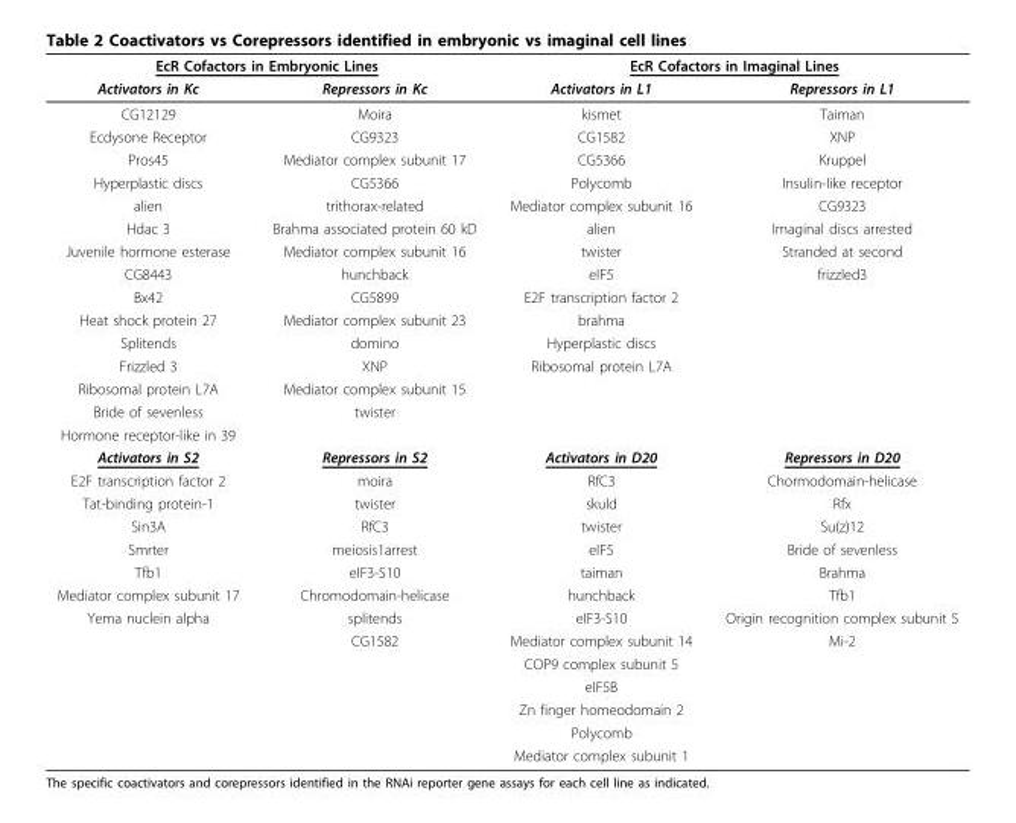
<table><thead><tr><td colspan="2">EcR Cofactors in Embryonic Lines</td><td colspan="2">EcR Cofactors in Imaginal Lines</td></tr><tr><td>Activators in Kc</td><td>Repressors in Kc</td><td>Activators in L1</td><td>Repressors in L1</td></tr></thead><tbody><tr><td>CG12129</td><td>Moira</td><td>kismet</td><td>Taiman</td></tr><tr><td>Ecdysone Receptor</td><td>CG9323</td><td>CG1582</td><td>XNP</td></tr><tr><td>Pros45</td><td>Mediator complex subunit 17</td><td>CG5366</td><td>Kruppel</td></tr><tr><td>Hyperplastic discs</td><td>CG5366</td><td>Polycomb</td><td>Insulin-like receptor</td></tr><tr><td>alien</td><td>trithorax-related</td><td>Mediator complex subunit 16</td><td>CG9323</td></tr><tr><td>Hdac 3</td><td>Brahma associated protein 60 kD</td><td>alien</td><td>Imaginal discs arrested</td></tr><tr><td>Juvenile hormone esterase</td><td>Mediator complex subunit 16</td><td>twister</td><td>Stranded at second</td></tr><tr><td>CG8443</td><td>hunchback</td><td>eIF5</td><td>frizzled3</td></tr><tr><td>Bx42</td><td>CG5899</td><td>E2F transcription factor 2</td><td></td></tr><tr><td>Heat shock protein 27</td><td>Mediator complex subunit 23</td><td>brahma</td><td></td></tr><tr><td>Splitends</td><td>domino</td><td>Hyperplastic discs</td><td></td></tr><tr><td>Frizzled 3</td><td>XNP</td><td>Ribosomal protein L7A</td><td></td></tr><tr><td>Ribosomal protein L7A</td><td>Mediator complex subunit 15</td><td></td><td></td></tr><tr><td>Bride of sevenless</td><td>twister</td><td></td><td></td></tr><tr><td colspan="4">Hormone receptor-like in 39</td></tr><tr><td>Activators in S2</td><td>Repressors in S2</td><td>Activators in D20</td><td>Repressors in D20</td></tr><tr><td>E2F transcription factor 2</td><td>moira</td><td>RfC3</td><td>Chormodomain-helicase</td></tr><tr><td>Tat-binding protein-1</td><td>twister</td><td>skuld</td><td>Rfx</td></tr><tr><td>Sin3A</td><td>RfC3</td><td>twister</td><td>Su(z)12</td></tr><tr><td>Smrter</td><td>meiosis1arrest</td><td>eIF5</td><td>Bride of sevenless</td></tr><tr><td>Tfb1</td><td>eIF3-S10</td><td>taiman</td><td>Brahma</td></tr><tr><td>Mediator complex subunit 17</td><td>Chromodomain-helicase</td><td>hunchback</td><td>Tfb1</td></tr><tr><td rowspan="7">Yema nuclein alpha</td><td>splitends</td><td>eIF3-S10</td><td>Origin recognition complex subunit 5</td></tr><tr><td>CG1582</td><td>Mediator complex subunit 14</td><td>Mi-2</td></tr><tr><td></td><td>COP9 complex subunit 5</td><td></td></tr><tr><td></td><td>eIF5B</td><td></td></tr><tr><td></td><td>Zn finger homeodomain 2</td><td></td></tr><tr><td></td><td>Polycomb</td><td></td></tr><tr><td></td><td>Mediator complex subunit 1</td><td></td></tr></tbody></table>